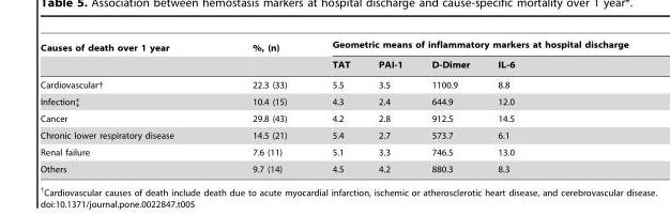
<table><thead><tr><td rowspan="2">Causes of death over 1 year</td><td rowspan="2">%, (n)</td><td colspan="4">Geometric means of inflammatory markers at hospital discharge</td></tr><tr><td>TAT</td><td>PAI-1</td><td>D-Dimer</td><td>IL-6</td></tr></thead><tbody><tr><td>Cardiovascular†</td><td>22.3 (33)</td><td>5.5</td><td>3.5</td><td>1100.9</td><td>8.8</td></tr><tr><td>Infection‡</td><td>10.4 (15)</td><td>4.3</td><td>2.4</td><td>644.9</td><td>12.0</td></tr><tr><td>Cancer</td><td>29.8 (43)</td><td>4.2</td><td>2.8</td><td>912.5</td><td>14.5</td></tr><tr><td>Chronic lower respiratory disease</td><td>14.5 (21)</td><td>5.4</td><td>2.7</td><td>573.7</td><td>6.1</td></tr><tr><td>Renal failure</td><td>7.6 (11)</td><td>5.1</td><td>3.3</td><td>746.5</td><td>13.0</td></tr><tr><td>Others</td><td>9.7 (14)</td><td>4.5</td><td>4.2</td><td>880.3</td><td>8.3</td></tr></tbody></table>